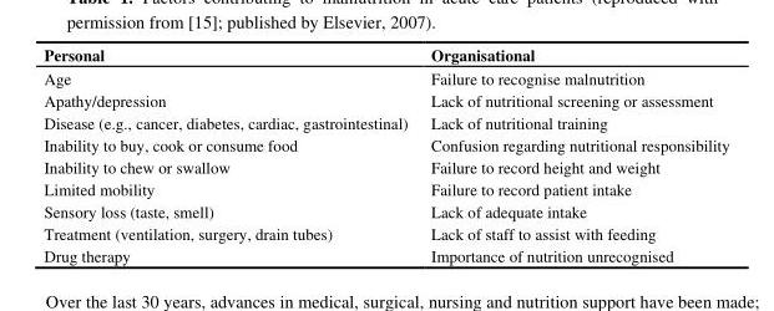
<table><thead><tr><td>Personal</td><td>Organisational</td></tr></thead><tbody><tr><td>Age</td><td>Failure to recognise malnutrition</td></tr><tr><td>Apathy/depression</td><td>Lack of nutritional screening or assessment</td></tr><tr><td>Disease (e.g., cancer, diabetes, cardiac, gastrointestinal)</td><td>Lack of nutritional training</td></tr><tr><td>Inability to buy, cook or consume food</td><td>Confusion regarding nutritional responsibility</td></tr><tr><td>Inability to chew or swallow</td><td>Failure to record height and weight</td></tr><tr><td>Limited mobility</td><td>Failure to record patient intake</td></tr><tr><td>Sensory loss (taste, smell)</td><td>Lack of adequate intake</td></tr><tr><td>Treatment (ventilation, surgery, drain tubes)</td><td>Lack of staff to assist with feeding</td></tr><tr><td>Drug therapy</td><td>Importance of nutrition unrecognised</td></tr></tbody></table>